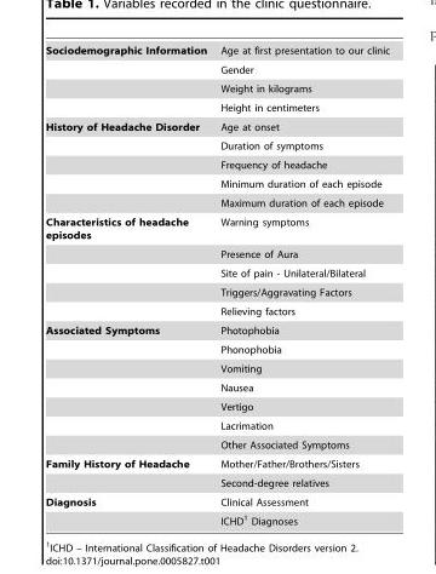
<table><tbody><tr><td rowspan="4">Sociodemographic Information</td><td>Age at first presentation to our clinic</td></tr><tr><td>Gender</td></tr><tr><td>Weight in kilograms</td></tr><tr><td>Height in centimeters</td></tr><tr><td rowspan="5">History of Headache Disorder</td><td>Age at onset</td></tr><tr><td>Duration of symptoms</td></tr><tr><td>Frequency of headache</td></tr><tr><td>Minimum duration of each episode</td></tr><tr><td>Maximum duration of each episode</td></tr><tr><td rowspan="5">Characteristics of headache episodes</td><td>Warning symptoms</td></tr><tr><td>Presence of Aura</td></tr><tr><td>Site of pain - Unilateral/Bilateral</td></tr><tr><td>Triggers/Aggravating Factors</td></tr><tr><td>Relieving factors</td></tr><tr><td rowspan="7">Associated Symptoms</td><td>Photophobia</td></tr><tr><td>Phonophobia</td></tr><tr><td>Vomiting</td></tr><tr><td>Nausea</td></tr><tr><td>Vertigo</td></tr><tr><td>Lacrimation</td></tr><tr><td>Other Associated Symptoms</td></tr><tr><td rowspan="2">Family History of Headache</td><td>Mother/Father/Brothers/Sisters</td></tr><tr><td>Second-degree relatives</td></tr><tr><td rowspan="2">Diagnosis</td><td>Clinical Assessment</td></tr><tr><td>ICHD<sup>1</sup> Diagnoses</td></tr></tbody></table>